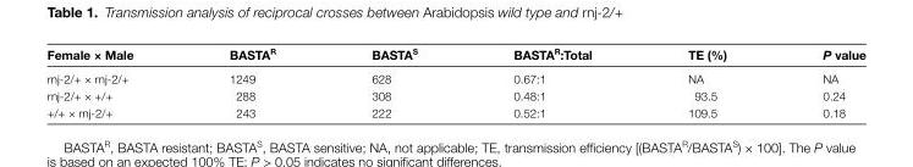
<table><thead><tr><td>Female × Male</td><td>BASTA<sup>R</sup></td><td>BASTA<sup>S</sup></td><td>BASTA<sup>R</sup>:Total</td><td>TE (%)</td><td>P value</td></tr></thead><tbody><tr><td>rnj-2/+ × rnj-2/+</td><td>1249</td><td>628</td><td>0.67:1</td><td>NA</td><td>NA</td></tr><tr><td>rnj-2/+ × +/+</td><td>288</td><td>308</td><td>0.48:1</td><td>93.5</td><td>0.24</td></tr><tr><td>+/+ × rnj-2/+</td><td>243</td><td>222</td><td>0.52:1</td><td>109.5</td><td>0.18</td></tr></tbody></table>